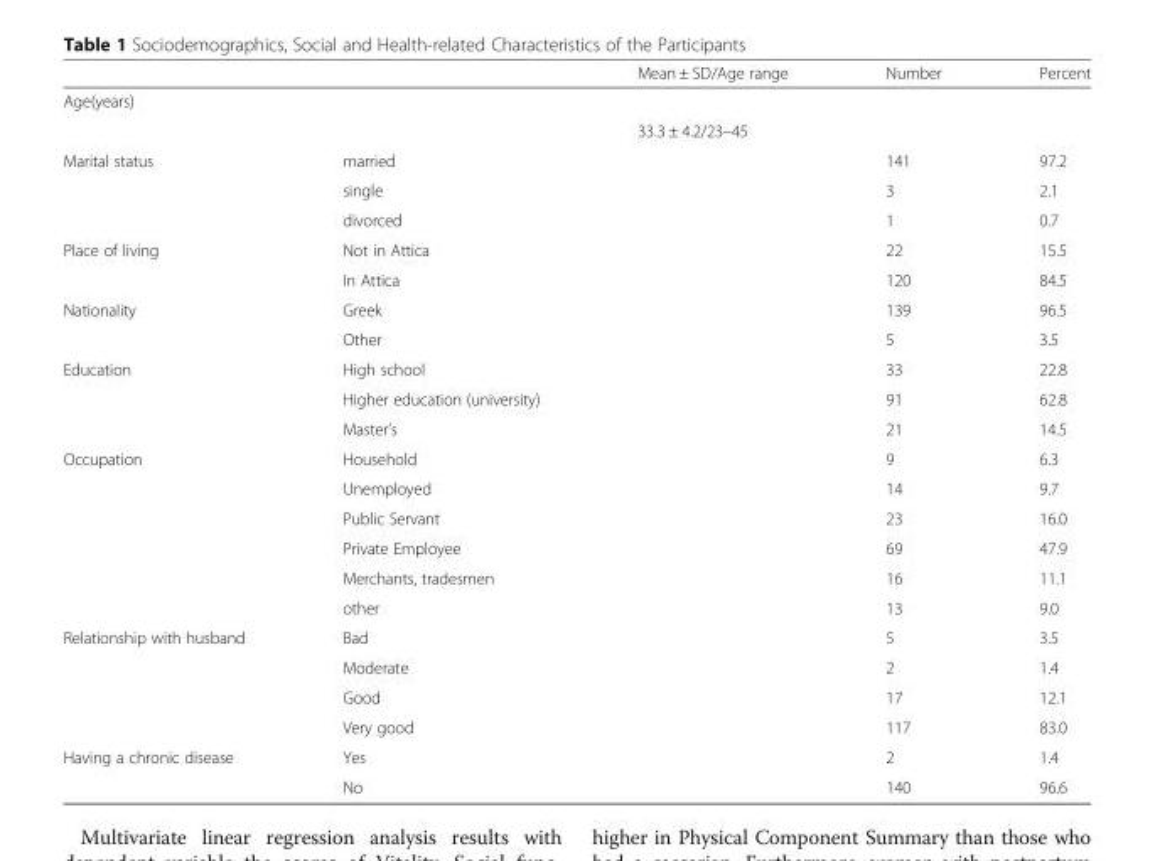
<table><thead><tr><td></td><td></td><td>Mean ± SD/Age range</td><td>Number</td><td>Percent</td></tr></thead><tbody><tr><td colspan="5">Age(years)</td></tr><tr><td></td><td></td><td>33.3 ± 4.2/23–45</td><td></td><td></td></tr><tr><td rowspan="3">Marital status</td><td>married</td><td></td><td>141</td><td>97.2</td></tr><tr><td>single</td><td></td><td>3</td><td>2.1</td></tr><tr><td>divorced</td><td></td><td>1</td><td>0.7</td></tr><tr><td rowspan="2">Place of living</td><td>Not in Attica</td><td></td><td>22</td><td>15.5</td></tr><tr><td>In Attica</td><td></td><td>120</td><td>84.5</td></tr><tr><td rowspan="2">Nationality</td><td>Greek</td><td></td><td>139</td><td>96.5</td></tr><tr><td>Other</td><td></td><td>5</td><td>3.5</td></tr><tr><td rowspan="3">Education</td><td>High school</td><td></td><td>33</td><td>22.8</td></tr><tr><td>Higher education (university)</td><td></td><td>91</td><td>62.8</td></tr><tr><td>Master’s</td><td></td><td>21</td><td>14.5</td></tr><tr><td rowspan="6">Occupation</td><td>Household</td><td></td><td>9</td><td>6.3</td></tr><tr><td>Unemployed</td><td></td><td>14</td><td>9.7</td></tr><tr><td>Public Servant</td><td></td><td>23</td><td>16.0</td></tr><tr><td>Private Employee</td><td></td><td>69</td><td>47.9</td></tr><tr><td>Merchants, tradesmen</td><td></td><td>16</td><td>11.1</td></tr><tr><td>other</td><td></td><td>13</td><td>9.0</td></tr><tr><td rowspan="4">Relationship with husband</td><td>Bad</td><td></td><td>5</td><td>3.5</td></tr><tr><td>Moderate</td><td></td><td>2</td><td>1.4</td></tr><tr><td>Good</td><td></td><td>17</td><td>12.1</td></tr><tr><td>Very good</td><td></td><td>117</td><td>83.0</td></tr><tr><td rowspan="2">Having a chronic disease</td><td>Yes</td><td></td><td>2</td><td>1.4</td></tr><tr><td>No</td><td></td><td>140</td><td>96.6</td></tr></tbody></table>